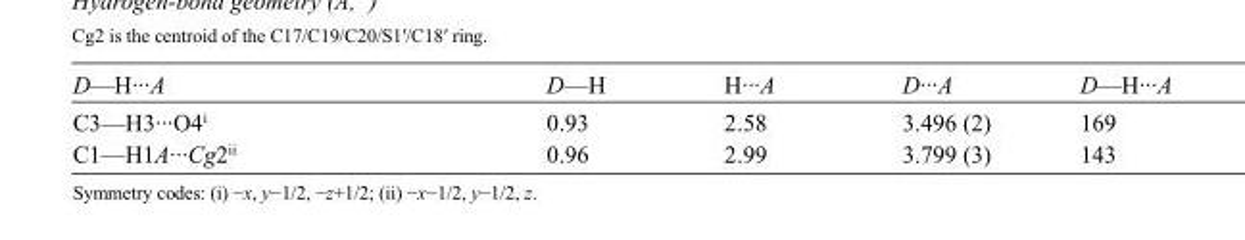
<table><tbody><tr><td>D—H···A</td><td>D—H</td><td>H···A</td><td>D···A</td><td>D—H···A</td></tr><tr><td>C3—H3···O4<sup>i</sup></td><td>0.93</td><td>2.58</td><td>3.496 (2)</td><td>169</td></tr><tr><td>C1—H1A···Cg2<sup>ii</sup></td><td>0.96</td><td>2.99</td><td>3.799 (3)</td><td>143</td></tr></tbody></table>